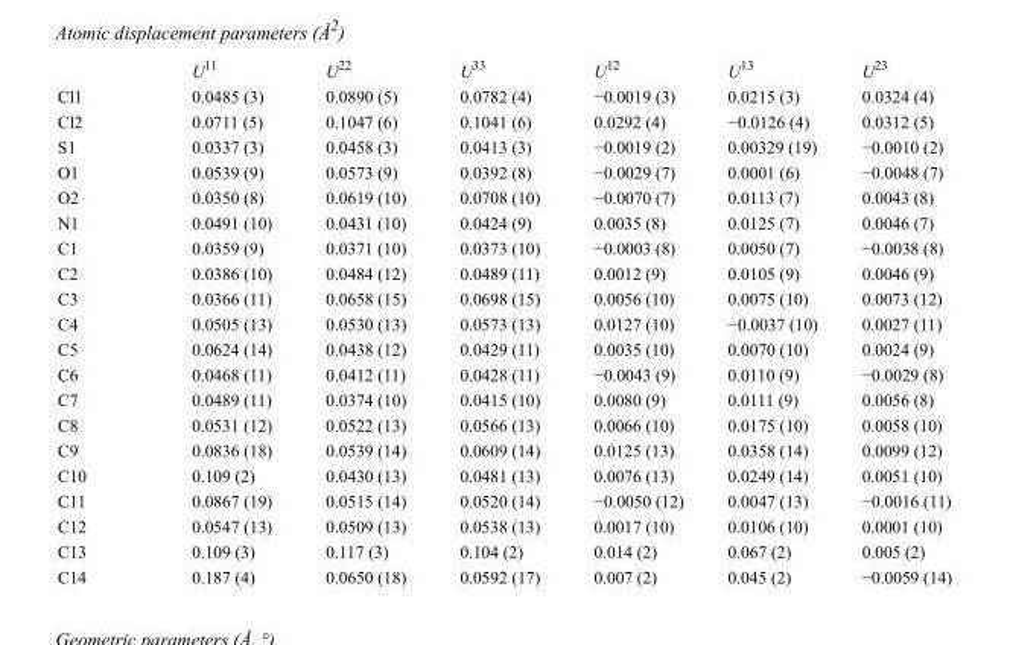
<table><thead><tr><td></td><td>U<sup>11</sup></td><td>U<sup>22</sup></td><td>U<sup>33</sup></td><td>U<sup>12</sup></td><td>U<sup>13</sup></td><td>U<sup>23</sup></td></tr></thead><tbody><tr><td>Cl1</td><td>0.0485 (3)</td><td>0.0890 (5)</td><td>0.0782 (4)</td><td>−0.0019 (3)</td><td>0.0215 (3)</td><td>0.0324 (4)</td></tr><tr><td>Cl2</td><td>0.0711 (5)</td><td>0.1047 (6)</td><td>0.1041 (6)</td><td>0.0292 (4)</td><td>−0.0126 (4)</td><td>0.0312 (5)</td></tr><tr><td>S1</td><td>0.0337 (3)</td><td>0.0458 (3)</td><td>0.0413 (3)</td><td>−0.0019 (2)</td><td>0.00329 (19)</td><td>−0.0010 (2)</td></tr><tr><td>O1</td><td>0.0539 (9)</td><td>0.0573 (9)</td><td>0.0392 (8)</td><td>−0.0029 (7)</td><td>0.0001 (6)</td><td>−0.0048 (7)</td></tr><tr><td>O2</td><td>0.0350 (8)</td><td>0.0619 (10)</td><td>0.0708 (10)</td><td>−0.0070 (7)</td><td>0.0113 (7)</td><td>0.0043 (8)</td></tr><tr><td>N1</td><td>0.0491 (10)</td><td>0.0431 (10)</td><td>0.0424 (9)</td><td>0.0035 (8)</td><td>0.0125 (7)</td><td>0.0046 (7)</td></tr><tr><td>C1</td><td>0.0359 (9)</td><td>0.0371 (10)</td><td>0.0373 (10)</td><td>−0.0003 (8)</td><td>0.0050 (7)</td><td>−0.0038 (8)</td></tr><tr><td>C2</td><td>0.0386 (10)</td><td>0.0484 (12)</td><td>0.0489 (11)</td><td>0.0012 (9)</td><td>0.0105 (9)</td><td>0.0046 (9)</td></tr><tr><td>C3</td><td>0.0366 (11)</td><td>0.0658 (15)</td><td>0.0698 (15)</td><td>0.0056 (10)</td><td>0.0075 (10)</td><td>0.0073 (12)</td></tr><tr><td>C4</td><td>0.0505 (13)</td><td>0.0530 (13)</td><td>0.0573 (13)</td><td>0.0127 (10)</td><td>−0.0037 (10)</td><td>0.0027 (11)</td></tr><tr><td>C5</td><td>0.0624 (14)</td><td>0.0438 (12)</td><td>0.0429 (11)</td><td>0.0035 (10)</td><td>0.0070 (10)</td><td>0.0024 (9)</td></tr><tr><td>C6</td><td>0.0468 (11)</td><td>0.0412 (11)</td><td>0.0428 (11)</td><td>−0.0043 (9)</td><td>0.0110 (9)</td><td>−0.0029 (8)</td></tr><tr><td>C7</td><td>0.0489 (11)</td><td>0.0374 (10)</td><td>0.0415 (10)</td><td>0.0080 (9)</td><td>0.0111 (9)</td><td>0.0056 (8)</td></tr><tr><td>C8</td><td>0.0531 (12)</td><td>0.0522 (13)</td><td>0.0566 (13)</td><td>0.0066 (10)</td><td>0.0175 (10)</td><td>0.0058 (10)</td></tr><tr><td>C9</td><td>0.0836 (18)</td><td>0.0539 (14)</td><td>0.0609 (14)</td><td>0.0125 (13)</td><td>0.0358 (14)</td><td>0.0099 (12)</td></tr><tr><td>C10</td><td>0.109 (2)</td><td>0.0430 (13)</td><td>0.0481 (13)</td><td>0.0076 (13)</td><td>0.0249 (14)</td><td>0.0051 (10)</td></tr><tr><td>C11</td><td>0.0867 (19)</td><td>0.0515 (14)</td><td>0.0520 (14)</td><td>−0.0050 (12)</td><td>0.0047 (13)</td><td>−0.0016 (11)</td></tr><tr><td>C12</td><td>0.0547 (13)</td><td>0.0509 (13)</td><td>0.0538 (13)</td><td>0.0017 (10)</td><td>0.0106 (10)</td><td>0.0001 (10)</td></tr><tr><td>C13</td><td>0.109 (3)</td><td>0.117 (3)</td><td>0.104 (2)</td><td>0.014 (2)</td><td>0.067 (2)</td><td>0.005 (2)</td></tr><tr><td>C14</td><td>0.187 (4)</td><td>0.0650 (18)</td><td>0.0592 (17)</td><td>0.007 (2)</td><td>0.045 (2)</td><td>−0.0059 (14)</td></tr></tbody></table>